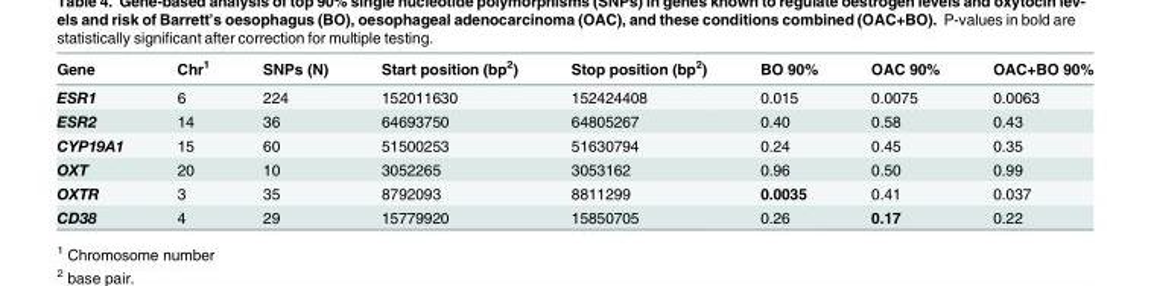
<table><thead><tr><td>Gene</td><td>Chr<sup>1</sup></td><td>SNPs (N)</td><td>Start position (bp<sup>2</sup>)</td><td>Stop position (bp<sup>2</sup>)</td><td>BO 90%</td><td>OAC 90%</td><td>OAC+BO 90%</td></tr></thead><tbody><tr><td>ESR1</td><td>6</td><td>224</td><td>152011630</td><td>152424408</td><td>0.015</td><td>0.0075</td><td>0.0063</td></tr><tr><td>ESR2</td><td>14</td><td>36</td><td>64693750</td><td>64805267</td><td>0.40</td><td>0.58</td><td>0.43</td></tr><tr><td>CYP19A1</td><td>15</td><td>60</td><td>51500253</td><td>51630794</td><td>0.24</td><td>0.45</td><td>0.35</td></tr><tr><td>OXT</td><td>20</td><td>10</td><td>3052265</td><td>3053162</td><td>0.96</td><td>0.50</td><td>0.99</td></tr><tr><td>OXTR</td><td>3</td><td>35</td><td>8792093</td><td>8811299</td><td>0.0035</td><td>0.41</td><td>0.037</td></tr><tr><td>CD38</td><td>4</td><td>29</td><td>15779920</td><td>15850705</td><td>0.26</td><td>0.17</td><td>0.22</td></tr></tbody></table>